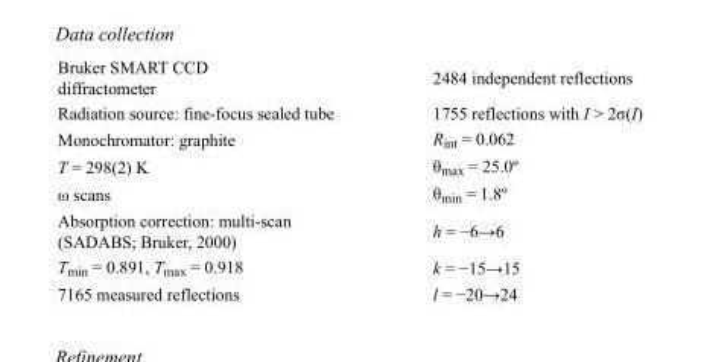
<table><tbody><tr><td>Bruker SMART CCD diffractometer</td><td>2484 independent reflections</td></tr><tr><td>Radiation source: fine-focus sealed tube</td><td>1755 reflections with I &gt; 2σ(I)</td></tr><tr><td>Monochromator: graphite</td><td>R<sub>int</sub> = 0.062</td></tr><tr><td>T = 298(2) K</td><td>θ<sub>max</sub> = 25.0º</td></tr><tr><td>ω scans</td><td>θ<sub>min</sub> = 1.8º</td></tr><tr><td>Absorption correction: multi-scan (SADABS; Bruker, 2000)</td><td>h = −6→6</td></tr><tr><td>T<sub>min</sub> = 0.891, T<sub>max</sub> = 0.918</td><td>k = −15→15</td></tr><tr><td>7165 measured reflections</td><td>l = −20→24</td></tr></tbody></table>